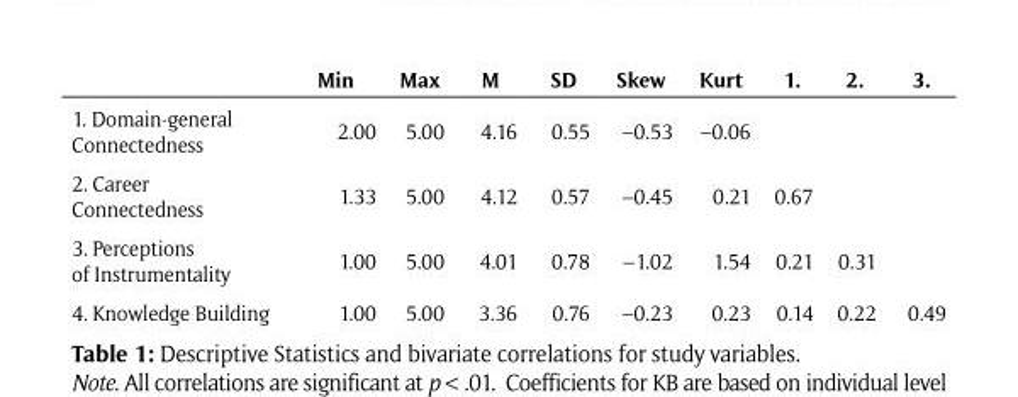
<table><thead><tr><td></td><td>Min</td><td>Max</td><td>M</td><td>SD</td><td>Skew</td><td>Kurt</td><td>1.</td><td>2.</td><td>3.</td></tr></thead><tbody><tr><td>1. Domain-general Connectedness</td><td>2.00</td><td>5.00</td><td>4.16</td><td>0.55</td><td>–0.53</td><td>–0.06</td><td></td><td></td><td></td></tr><tr><td>2. Career Connectedness</td><td>1.33</td><td>5.00</td><td>4.12</td><td>0.57</td><td>–0.45</td><td>0.21</td><td>0.67</td><td></td><td></td></tr><tr><td>3. Perceptions of Instrumentality</td><td>1.00</td><td>5.00</td><td>4.01</td><td>0.78</td><td>–1.02</td><td>1.54</td><td>0.21</td><td>0.31</td><td></td></tr><tr><td>4. Knowledge Building</td><td>1.00</td><td>5.00</td><td>3.36</td><td>0.76</td><td>–0.23</td><td>0.23</td><td>0.14</td><td>0.22</td><td>0.49</td></tr></tbody></table>